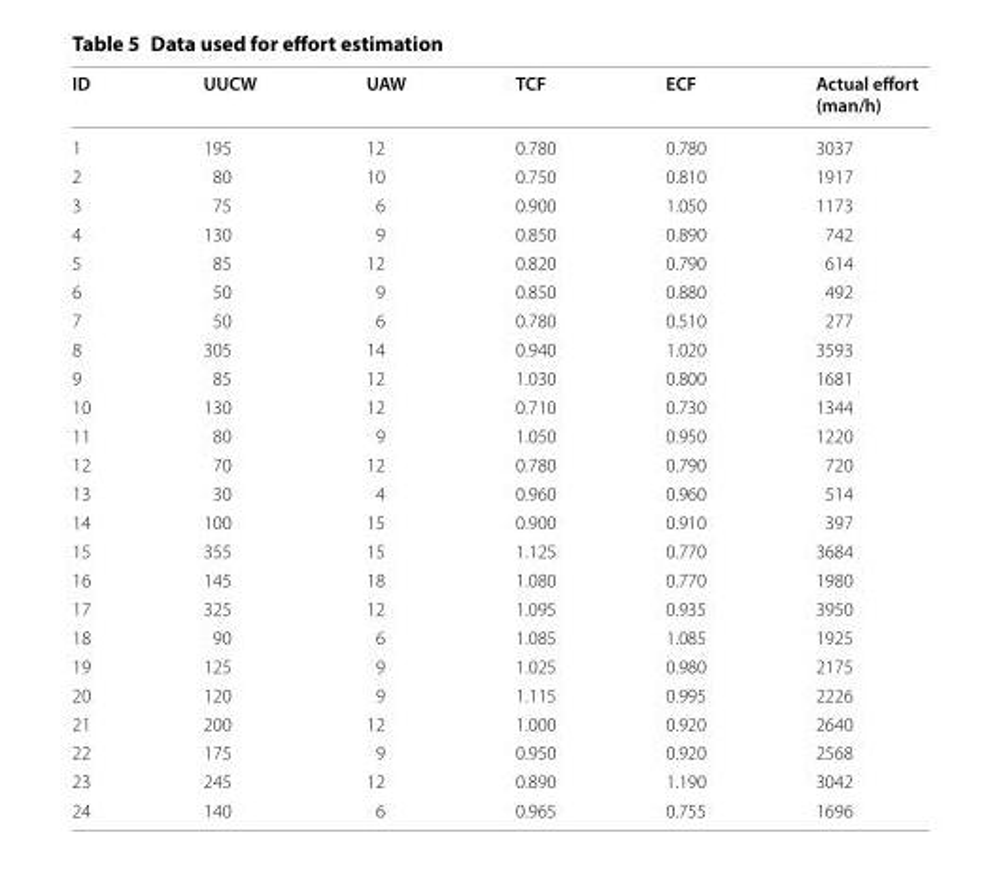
<table><thead><tr><td>ID</td><td>UUCW</td><td>UAW</td><td>TCF</td><td>ECF</td><td>Actual effort (man/h)</td></tr></thead><tbody><tr><td>1</td><td>195</td><td>12</td><td>0.780</td><td>0.780</td><td>3037</td></tr><tr><td>2</td><td>80</td><td>10</td><td>0.750</td><td>0.810</td><td>1917</td></tr><tr><td>3</td><td>75</td><td>6</td><td>0.900</td><td>1.050</td><td>1173</td></tr><tr><td>4</td><td>130</td><td>9</td><td>0.850</td><td>0.890</td><td>742</td></tr><tr><td>5</td><td>85</td><td>12</td><td>0.820</td><td>0.790</td><td>614</td></tr><tr><td>6</td><td>50</td><td>9</td><td>0.850</td><td>0.880</td><td>492</td></tr><tr><td>7</td><td>50</td><td>6</td><td>0.780</td><td>0.510</td><td>277</td></tr><tr><td>8</td><td>305</td><td>14</td><td>0.940</td><td>1.020</td><td>3593</td></tr><tr><td>9</td><td>85</td><td>12</td><td>1.030</td><td>0.800</td><td>1681</td></tr><tr><td>10</td><td>130</td><td>12</td><td>0.710</td><td>0.730</td><td>1344</td></tr><tr><td>11</td><td>80</td><td>9</td><td>1.050</td><td>0.950</td><td>1220</td></tr><tr><td>12</td><td>70</td><td>12</td><td>0.780</td><td>0.790</td><td>720</td></tr><tr><td>13</td><td>30</td><td>4</td><td>0.960</td><td>0.960</td><td>514</td></tr><tr><td>14</td><td>100</td><td>15</td><td>0.900</td><td>0.910</td><td>397</td></tr><tr><td>15</td><td>355</td><td>15</td><td>1.125</td><td>0.770</td><td>3684</td></tr><tr><td>16</td><td>145</td><td>18</td><td>1.080</td><td>0.770</td><td>1980</td></tr><tr><td>17</td><td>325</td><td>12</td><td>1.095</td><td>0.935</td><td>3950</td></tr><tr><td>18</td><td>90</td><td>6</td><td>1.085</td><td>1.085</td><td>1925</td></tr><tr><td>19</td><td>125</td><td>9</td><td>1.025</td><td>0.980</td><td>2175</td></tr><tr><td>20</td><td>120</td><td>9</td><td>1.115</td><td>0.995</td><td>2226</td></tr><tr><td>21</td><td>200</td><td>12</td><td>1.000</td><td>0.920</td><td>2640</td></tr><tr><td>22</td><td>175</td><td>9</td><td>0.950</td><td>0.920</td><td>2568</td></tr><tr><td>23</td><td>245</td><td>12</td><td>0.890</td><td>1.190</td><td>3042</td></tr><tr><td>24</td><td>140</td><td>6</td><td>0.965</td><td>0.755</td><td>1696</td></tr></tbody></table>